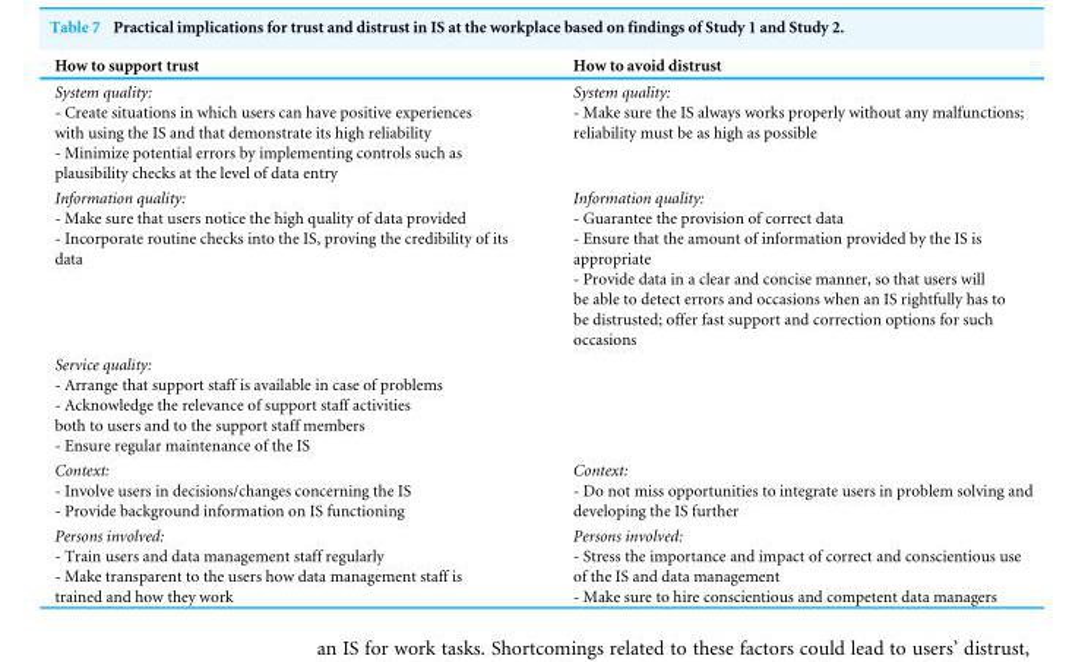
<table><thead><tr><td>How to support trust</td><td>How to avoid distrust</td></tr></thead><tbody><tr><td>System quality: - Create situations in which users can have positive experiences with using the IS and that demonstrate its high reliability - Minimize potential errors by implementing controls such as plausibility checks at the level of data entry</td><td>System quality: - Make sure the IS always works properly without any malfunctions; reliability must be as high as possible</td></tr><tr><td>Information quality: - Make sure that users notice the high quality of data provided - Incorporate routine checks into the IS, proving the credibility of its data</td><td>Information quality: - Guarantee the provision of correct data - Ensure that the amount of information provided by the IS is appropriate - Provide data in a clear and concise manner, so that users will be able to detect errors and occasions when an IS rightfully has to be distrusted; offer fast support and correction options for such occasions</td></tr><tr><td colspan="2">Service quality: - Arrange that support staff is available in case of problems - Acknowledge the relevance of support staff activities both to users and to the support staff members - Ensure regular maintenance of the IS</td></tr><tr><td>Context: - Involve users in decisions/changes concerning the IS - Provide background information on IS functioning</td><td>Context: - Do not miss opportunities to integrate users in problem solving and developing the IS further</td></tr><tr><td>Persons involved: - Train users and data management staff regularly - Make transparent to the users how data management staff is trained and how they work</td><td>Persons involved: - Stress the importance and impact of correct and conscientious use of the IS and data management - Make sure to hire conscientious and competent data managers</td></tr></tbody></table>